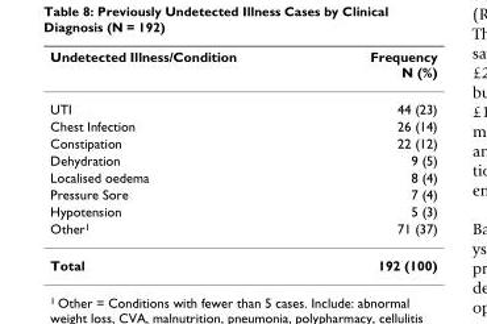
<table><thead><tr><td>Undetected Illness/Condition</td><td>Frequency N (%)</td></tr></thead><tbody><tr><td>UTI</td><td>44 (23)</td></tr><tr><td>Chest Infection</td><td>26 (14)</td></tr><tr><td>Constipation</td><td>22 (12)</td></tr><tr><td>Dehydration</td><td>9 (5)</td></tr><tr><td>Localised oedema</td><td>8 (4)</td></tr><tr><td>Pressure Sore</td><td>7 (4)</td></tr><tr><td>Hypotension</td><td>5 (3)</td></tr><tr><td>Other<sup>1</sup></td><td>71 (37)</td></tr><tr><td>Total</td><td>192 (100)</td></tr></tbody></table>